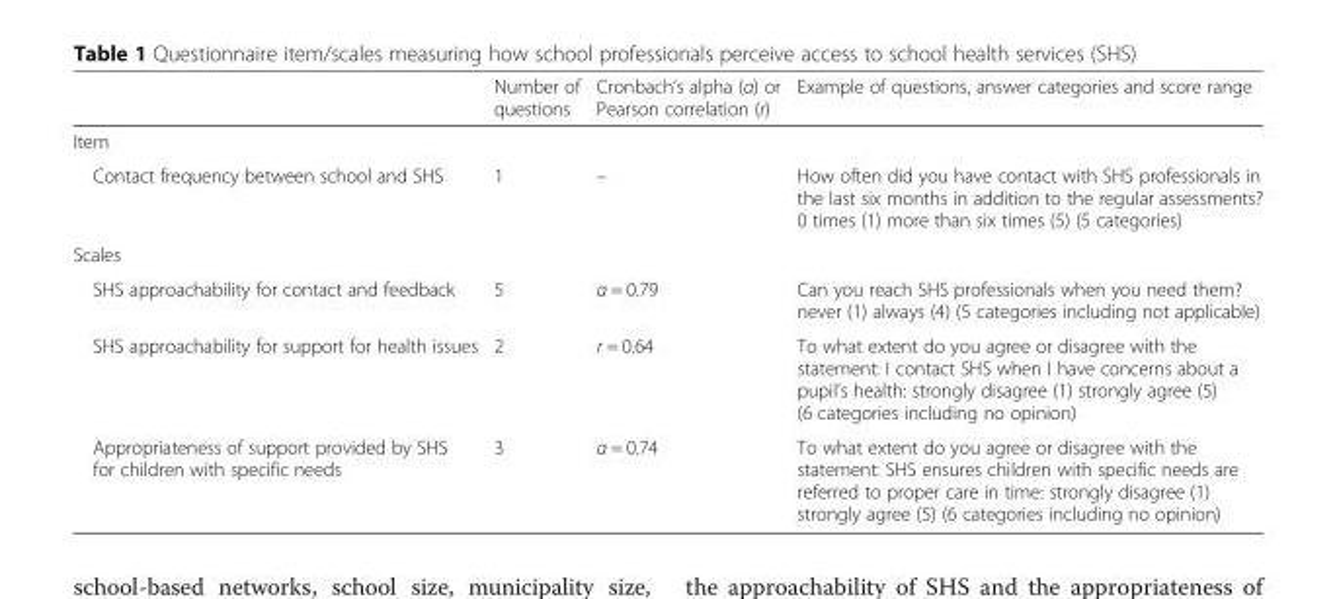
<table><thead><tr><td></td><td>Number of questions</td><td>Cronbach’s alpha (α) or Pearson correlation (r)</td><td>Example of questions, answer categories and score range</td></tr></thead><tbody><tr><td colspan="4">Item</td></tr><tr><td>Contact frequency between school and SHS</td><td>1</td><td>–</td><td>How often did you have contact with SHS professionals in the last six months in addition to the regular assessments? 0 times (1) more than six times (5) (5 categories)</td></tr><tr><td colspan="4">Scales</td></tr><tr><td>SHS approachability for contact and feedback</td><td>5</td><td>α = 0.79</td><td>Can you reach SHS professionals when you need them? never (1) always (4) (5 categories including not applicable)</td></tr><tr><td>SHS approachability for support for health issues</td><td>2</td><td>r = 0.64</td><td>To what extent do you agree or disagree with the statement: I contact SHS when I have concerns about a pupil’s health: strongly disagree (1) strongly agree (5) (6 categories including no opinion)</td></tr><tr><td>Appropriateness of support provided by SHS for children with specific needs</td><td>3</td><td>α = 0.74</td><td>To what extent do you agree or disagree with the statement: SHS ensures children with specific needs are referred to proper care in time: strongly disagree (1) strongly agree (5) (6 categories including no opinion)</td></tr></tbody></table>